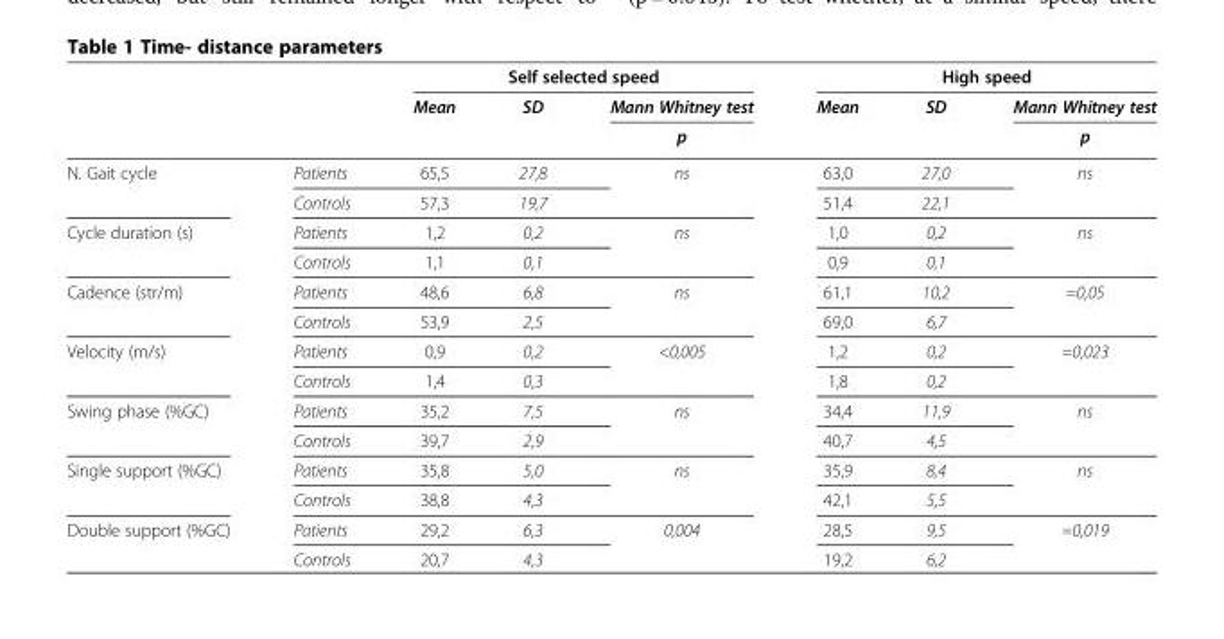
<table><thead><tr><td rowspan="3"></td><td rowspan="3"></td><td colspan="3">Self selected speed</td><td colspan="3">High speed</td></tr><tr><td rowspan="2">Mean</td><td rowspan="2">SD</td><td rowspan="2">Mann Whitney test p</td><td rowspan="2">Mean</td><td rowspan="2">SD</td><td rowspan="2">Mann Whitney test p</td></tr><tr></tr></thead><tbody><tr><td rowspan="2">N. Gait cycle</td><td>Patients</td><td>65,5</td><td>27,8</td><td>ns</td><td>63,0</td><td>27,0</td><td>ns</td></tr><tr><td>Controls</td><td>57,3</td><td>19,7</td><td></td><td>51,4</td><td>22,1</td><td></td></tr><tr><td rowspan="2">Cycle duration (s)</td><td>Patients</td><td>1,2</td><td>0,2</td><td>ns</td><td>1,0</td><td>0,2</td><td>ns</td></tr><tr><td>Controls</td><td>1,1</td><td>0,1</td><td></td><td>0,9</td><td>0,1</td><td></td></tr><tr><td rowspan="2">Cadence (str/m)</td><td>Patients</td><td>48,6</td><td>6,8</td><td>ns</td><td>61,1</td><td>10,2</td><td>=0,05</td></tr><tr><td>Controls</td><td>53,9</td><td>2,5</td><td></td><td>69,0</td><td>6,7</td><td></td></tr><tr><td rowspan="2">Velocity (m/s)</td><td>Patients</td><td>0,9</td><td>0,2</td><td>&lt;0,005</td><td>1,2</td><td>0,2</td><td>=0,023</td></tr><tr><td>Controls</td><td>1,4</td><td>0,3</td><td></td><td>1,8</td><td>0,2</td><td></td></tr><tr><td rowspan="2">Swing phase (%GC)</td><td>Patients</td><td>35,2</td><td>7,5</td><td>ns</td><td>34,4</td><td>11,9</td><td>ns</td></tr><tr><td>Controls</td><td>39,7</td><td>2,9</td><td></td><td>40,7</td><td>4,5</td><td></td></tr><tr><td rowspan="2">Single support (%GC)</td><td>Patients</td><td>35,8</td><td>5,0</td><td>ns</td><td>35,9</td><td>8,4</td><td>ns</td></tr><tr><td>Controls</td><td>38,8</td><td>4,3</td><td></td><td>42,1</td><td>5,5</td><td></td></tr><tr><td rowspan="2">Double support (%GC)</td><td>Patients</td><td>29,2</td><td>6,3</td><td>0,004</td><td>28,5</td><td>9,5</td><td>=0,019</td></tr><tr><td>Controls</td><td>20,7</td><td>4,3</td><td></td><td>19,2</td><td>6,2</td><td></td></tr></tbody></table>